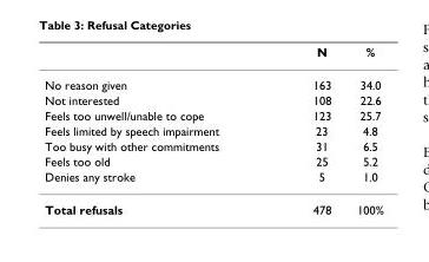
<table><thead><tr><td></td><td>N</td><td>%</td></tr></thead><tbody><tr><td>No reason given</td><td>163</td><td>34.0</td></tr><tr><td>Not interested</td><td>108</td><td>22.6</td></tr><tr><td>Feels too unwell/unable to cope</td><td>123</td><td>25.7</td></tr><tr><td>Feels limited by speech impairment</td><td>23</td><td>4.8</td></tr><tr><td>Too busy with other commitments</td><td>31</td><td>6.5</td></tr><tr><td>Feels too old</td><td>25</td><td>5.2</td></tr><tr><td>Denies any stroke</td><td>5</td><td>1.0</td></tr><tr><td>Total refusals</td><td>478</td><td>100%</td></tr></tbody></table>